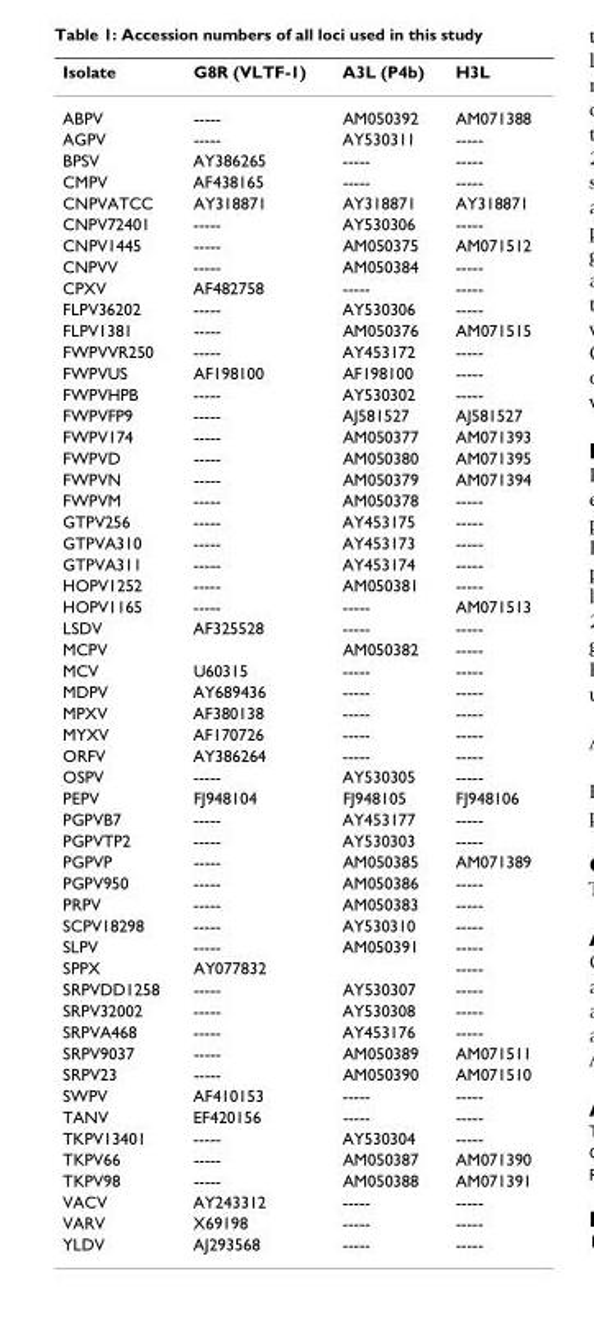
<table><thead><tr><td>Isolate</td><td>G8R (VLTF-1)</td><td>A3L (P4b)</td><td>H3L</td></tr></thead><tbody><tr><td>ABPV</td><td>-----</td><td>AM050392</td><td>AM071388</td></tr><tr><td>AGPV</td><td>-----</td><td>AY530311</td><td>-----</td></tr><tr><td>BPSV</td><td>AY386265</td><td>-----</td><td>-----</td></tr><tr><td>CMPV</td><td>AF438165</td><td>-----</td><td>-----</td></tr><tr><td>CNPVATCC</td><td>AY318871</td><td>AY318871</td><td>AY318871</td></tr><tr><td>CNPV72401</td><td>-----</td><td>AY530306</td><td>-----</td></tr><tr><td>CNPV1445</td><td>-----</td><td>AM050375</td><td>AM071512</td></tr><tr><td>CNPVV</td><td>-----</td><td>AM050384</td><td>-----</td></tr><tr><td>CPXV</td><td>AF482758</td><td>-----</td><td>-----</td></tr><tr><td>FLPV36202</td><td>-----</td><td>AY530306</td><td>-----</td></tr><tr><td>FLPV1381</td><td>-----</td><td>AM050376</td><td>AM071515</td></tr><tr><td>FWPVVR250</td><td>-----</td><td>AY453172</td><td>-----</td></tr><tr><td>FWPVUS</td><td>AF198100</td><td>AF198100</td><td>-----</td></tr><tr><td>FWPVHPB</td><td>-----</td><td>AY530302</td><td>-----</td></tr><tr><td>FWPVFP9</td><td>-----</td><td>AJ581527</td><td>AJ581527</td></tr><tr><td>FWPV174</td><td>-----</td><td>AM050377</td><td>AM071393</td></tr><tr><td>FWPVD</td><td>-----</td><td>AM050380</td><td>AM071395</td></tr><tr><td>FWPVN</td><td>-----</td><td>AM050379</td><td>AM071394</td></tr><tr><td>FWPVM</td><td>-----</td><td>AM050378</td><td>-----</td></tr><tr><td>GTPV256</td><td>-----</td><td>AY453175</td><td>-----</td></tr><tr><td>GTPVA310</td><td>-----</td><td>AY453173</td><td>-----</td></tr><tr><td>GTPVA311</td><td>-----</td><td>AY453174</td><td>-----</td></tr><tr><td>HOPV1252</td><td>-----</td><td>AM050381</td><td>-----</td></tr><tr><td>HOPV1165</td><td>-----</td><td>-----</td><td>AM071513</td></tr><tr><td>LSDV</td><td>AF325528</td><td>-----</td><td>-----</td></tr><tr><td>MCPV</td><td></td><td>AM050382</td><td>-----</td></tr><tr><td>MCV</td><td>U60315</td><td>-----</td><td>-----</td></tr><tr><td>MDPV</td><td>AY689436</td><td>-----</td><td>-----</td></tr><tr><td>MPXV</td><td>AF380138</td><td>-----</td><td>-----</td></tr><tr><td>MYXV</td><td>AF170726</td><td>-----</td><td>-----</td></tr><tr><td>ORFV</td><td>AY386264</td><td>-----</td><td>-----</td></tr><tr><td>OSPV</td><td>-----</td><td>AY530305</td><td>-----</td></tr><tr><td>PEPV</td><td>FJ948104</td><td>FJ948105</td><td>FJ948106</td></tr><tr><td>PGPVB7</td><td>-----</td><td>AY453177</td><td>-----</td></tr><tr><td>PGPVTP2</td><td>-----</td><td>AY530303</td><td>-----</td></tr><tr><td>PGPVP</td><td>-----</td><td>AM050385</td><td>AM071389</td></tr><tr><td>PGPV950</td><td>-----</td><td>AM050386</td><td>-----</td></tr><tr><td>PRPV</td><td>-----</td><td>AM050383</td><td>-----</td></tr><tr><td>SCPV18298</td><td>-----</td><td>AY530310</td><td>-----</td></tr><tr><td>SLPV</td><td>-----</td><td>AM050391</td><td>-----</td></tr><tr><td>SPPX</td><td>AY077832</td><td></td><td>-----</td></tr><tr><td>SRPVDD1258</td><td>-----</td><td>AY530307</td><td>-----</td></tr><tr><td>SRPV32002</td><td>-----</td><td>AY530308</td><td>-----</td></tr><tr><td>SRPVA468</td><td>-----</td><td>AY453176</td><td>-----</td></tr><tr><td>SRPV9037</td><td>-----</td><td>AM050389</td><td>AM071511</td></tr><tr><td>SRPV23</td><td>-----</td><td>AM050390</td><td>AM071510</td></tr><tr><td>SWPV</td><td>AF410153</td><td>-----</td><td>-----</td></tr><tr><td>TANV</td><td>EF420156</td><td>-----</td><td>-----</td></tr><tr><td>TKPV13401</td><td>-----</td><td>AY530304</td><td>-----</td></tr><tr><td>TKPV66</td><td>-----</td><td>AM050387</td><td>AM071390</td></tr><tr><td>TKPV98</td><td>-----</td><td>AM050388</td><td>AM071391</td></tr><tr><td>VACV</td><td>AY243312</td><td>-----</td><td>-----</td></tr><tr><td>VARV</td><td>X69198</td><td>-----</td><td>-----</td></tr><tr><td>YLDV</td><td>AJ293568</td><td>-----</td><td>-----</td></tr></tbody></table>